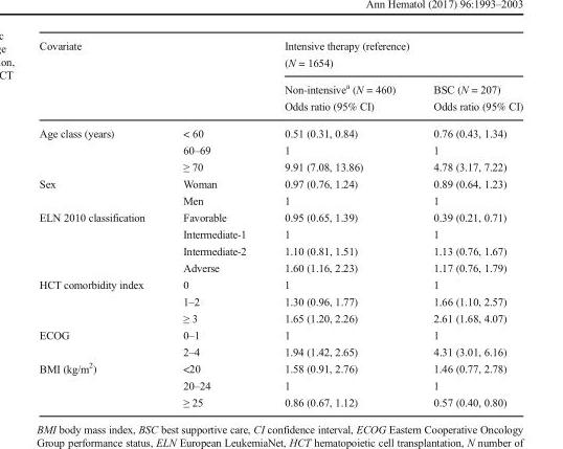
<table><thead><tr><td rowspan="2" colspan="2">Covariate</td><td colspan="2">Intensive therapy (reference) (N = 1654)</td></tr><tr><td rowspan="2">Non-intensive<sup>a</sup> (N = 460) Odds ratio (95% CI) 0.51 (0.31, 0.84)</td><td rowspan="2">BSC (N = 207) Odds ratio (95% CI) 0.76 (0.43, 1.34)</td></tr><tr><td>Age class (years)</td><td>&lt; 60</td></tr></thead><tbody><tr><td></td><td>60–69</td><td>1</td><td>1</td></tr><tr><td></td><td>≥ 70</td><td>9.91 (7.08, 13.86)</td><td>4.78 (3.17, 7.22)</td></tr><tr><td rowspan="2">Sex</td><td>Woman</td><td>0.97 (0.76, 1.24)</td><td>0.89 (0.64, 1.23)</td></tr><tr><td>Men</td><td>1</td><td>1</td></tr><tr><td rowspan="4">ELN 2010 classification</td><td>Favorable</td><td>0.95 (0.65, 1.39)</td><td>0.39 (0.21, 0.71)</td></tr><tr><td>Intermediate-1</td><td>1</td><td>1</td></tr><tr><td>Intermediate-2</td><td>1.10 (0.81, 1.51)</td><td>1.13 (0.76, 1.67)</td></tr><tr><td>Adverse</td><td>1.60 (1.16, 2.23)</td><td>1.17 (0.76, 1.79)</td></tr><tr><td rowspan="3">HCT comorbidity index</td><td>0</td><td>1</td><td>1</td></tr><tr><td>1–2</td><td>1.30 (0.96, 1.77)</td><td>1.66 (1.10, 2.57)</td></tr><tr><td>≥ 3</td><td>1.65 (1.20, 2.26)</td><td>2.61 (1.68, 4.07)</td></tr><tr><td rowspan="2">ECOG</td><td>0–1</td><td>1</td><td>1</td></tr><tr><td>2–4</td><td>1.94 (1.42, 2.65)</td><td>4.31 (3.01, 6.16)</td></tr><tr><td rowspan="3">BMI (kg/m<sup>2</sup>)</td><td>&lt;20</td><td>1.58 (0.91, 2.76)</td><td>1.46 (0.77, 2.78)</td></tr><tr><td>20–24</td><td>1</td><td>1</td></tr><tr><td>≥ 25</td><td>0.86 (0.67, 1.12)</td><td>0.57 (0.40, 0.80)</td></tr></tbody></table>